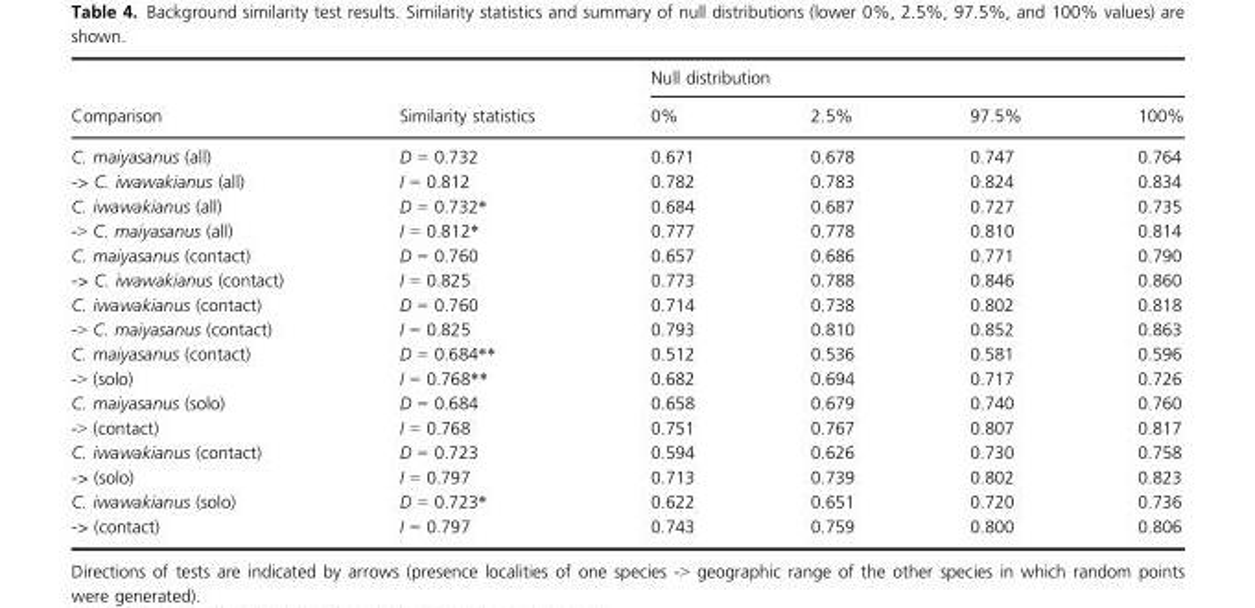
<table><thead><tr><td rowspan="2">Comparison</td><td rowspan="2">Similarity statistics</td><td colspan="4">Null distribution</td></tr><tr><td>0%</td><td>2.5%</td><td>97.5%</td><td>100%</td></tr></thead><tbody><tr><td>C. maiyasanus (all)</td><td>D = 0.732</td><td>0.671</td><td>0.678</td><td>0.747</td><td>0.764</td></tr><tr><td>-&gt; C. iwawakianus (all)</td><td>I = 0.812</td><td>0.782</td><td>0.783</td><td>0.824</td><td>0.834</td></tr><tr><td>C. iwawakianus (all)</td><td>D = 0.732*</td><td>0.684</td><td>0.687</td><td>0.727</td><td>0.735</td></tr><tr><td>-&gt; C. maiyasanus (all)</td><td>I = 0.812*</td><td>0.777</td><td>0.778</td><td>0.810</td><td>0.814</td></tr><tr><td>C. maiyasanus (contact)</td><td>D = 0.760</td><td>0.657</td><td>0.686</td><td>0.771</td><td>0.790</td></tr><tr><td>-&gt; C. iwawakianus (contact)</td><td>I = 0.825</td><td>0.773</td><td>0.788</td><td>0.846</td><td>0.860</td></tr><tr><td>C. iwawakianus (contact)</td><td>D = 0.760</td><td>0.714</td><td>0.738</td><td>0.802</td><td>0.818</td></tr><tr><td>-&gt; C. maiyasanus (contact)</td><td>I = 0.825</td><td>0.793</td><td>0.810</td><td>0.852</td><td>0.863</td></tr><tr><td>C. maiyasanus (contact)</td><td>D = 0.684**</td><td>0.512</td><td>0.536</td><td>0.581</td><td>0.596</td></tr><tr><td>-&gt; (solo)</td><td>I = 0.768**</td><td>0.682</td><td>0.694</td><td>0.717</td><td>0.726</td></tr><tr><td>C. maiyasanus (solo)</td><td>D = 0.684</td><td>0.658</td><td>0.679</td><td>0.740</td><td>0.760</td></tr><tr><td>-&gt; (contact)</td><td>I = 0.768</td><td>0.751</td><td>0.767</td><td>0.807</td><td>0.817</td></tr><tr><td>C. iwawakianus (contact)</td><td>D = 0.723</td><td>0.594</td><td>0.626</td><td>0.730</td><td>0.758</td></tr><tr><td>-&gt; (solo)</td><td>I = 0.797</td><td>0.713</td><td>0.739</td><td>0.802</td><td>0.823</td></tr><tr><td>C. iwawakianus (solo)</td><td>D = 0.723*</td><td>0.622</td><td>0.651</td><td>0.720</td><td>0.736</td></tr><tr><td>-&gt; (contact)</td><td>I = 0.797</td><td>0.743</td><td>0.759</td><td>0.800</td><td>0.806</td></tr></tbody></table>